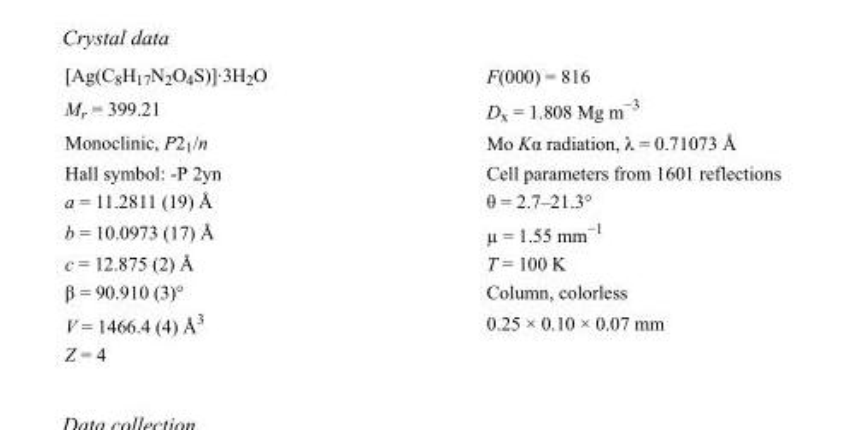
<table><tbody><tr><td>[Ag(C<sub>8</sub>H<sub>17</sub>N<sub>2</sub>O<sub>4</sub>S)]·3H<sub>2</sub>O</td><td>F(000) = 816</td></tr><tr><td>M<sub>r</sub> = 399.21</td><td>D<sub>x</sub> = 1.808 Mg m<sup>−3</sup></td></tr><tr><td>Monoclinic, P2<sub>1</sub>/n</td><td>Mo Kα radiation, λ = 0.71073 Å</td></tr><tr><td>Hall symbol: -P 2yn</td><td>Cell parameters from 1601 reflections</td></tr><tr><td>a = 11.2811 (19) Å</td><td>θ = 2.7–21.3°</td></tr><tr><td>b = 10.0973 (17) Å</td><td>µ = 1.55 mm<sup>−1</sup></td></tr><tr><td>c = 12.875 (2) Å</td><td>T = 100 K</td></tr><tr><td>β = 90.910 (3)°</td><td>Column, colorless</td></tr><tr><td>V = 1466.4 (4) Å<sup>3</sup></td><td>0.25 × 0.10 × 0.07 mm</td></tr><tr><td>Z = 4</td><td></td></tr></tbody></table>